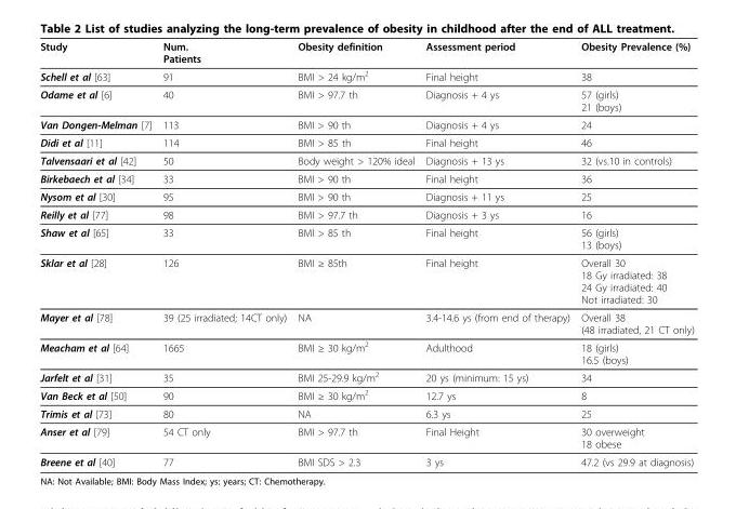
<table><thead><tr><td>Study</td><td>Num. Patients</td><td>Obesity definition</td><td>Assessment period</td><td>Obesity Prevalence (%)</td></tr></thead><tbody><tr><td>Schell et al [63]</td><td>91</td><td>BMI &gt; 24 kg/m<sup>2</sup></td><td>Final height</td><td>38</td></tr><tr><td>Odame et al [6]</td><td>40</td><td>BMI &gt; 97.7 th</td><td>Diagnosis + 4 ys</td><td>57 (girls) 21 (boys)</td></tr><tr><td>Van Dongen-Melman [7]</td><td>113</td><td>BMI &gt; 90 th</td><td>Diagnosis + 4 ys</td><td>24</td></tr><tr><td>Didi et al [11]</td><td>114</td><td>BMI &gt; 85 th</td><td>Final height</td><td>46</td></tr><tr><td>Talvensaari et al [42]</td><td>50</td><td>Body weight &gt; 120% ideal</td><td>Diagnosis + 13 ys</td><td>32 (vs.10 in controls)</td></tr><tr><td>Birkebaech et al [34]</td><td>33</td><td>BMI &gt; 90 th</td><td>Final height</td><td>36</td></tr><tr><td>Nysom et al [30]</td><td>95</td><td>BMI &gt; 90 th</td><td>Diagnosis + 11 ys</td><td>25</td></tr><tr><td>Reilly et al [77]</td><td>98</td><td>BMI &gt; 97.7 th</td><td>Diagnosis + 3 ys</td><td>16</td></tr><tr><td>Shaw et al [65]</td><td>33</td><td>BMI &gt; 85 th</td><td>Final height</td><td>56 (girls) 13 (boys)</td></tr><tr><td>Sklar et al [28]</td><td>126</td><td>BMI ≥ 85th</td><td>Final height</td><td>Overall 30 18 Gy irradiated: 38 24 Gy irradiated: 40 Not irradiated: 30</td></tr><tr><td>Mayer et al [78]</td><td>39 (25 irradiated; 14CT only)</td><td>NA</td><td>3.4-14.6 ys (from end of therapy)</td><td>Overall 38 (48 irradiated, 21 CT only)</td></tr><tr><td>Meacham et al [64]</td><td>1665</td><td>BMI ≥ 30 kg/m<sup>2</sup></td><td>Adulthood</td><td>18 (girls) 16.5 (boys)</td></tr><tr><td>Jarfelt et al [31]</td><td>35</td><td>BMI 25-29.9 kg/m<sup>2</sup></td><td>20 ys (minimum: 15 ys)</td><td>34</td></tr><tr><td>Van Beck et al [50]</td><td>90</td><td>BMI ≥ 30 kg/m<sup>2</sup></td><td>12.7 ys</td><td>8</td></tr><tr><td>Trimis et al [73]</td><td>80</td><td>NA</td><td>6.3 ys</td><td>25</td></tr><tr><td>Anser et al [79]</td><td>54 CT only</td><td>BMI &gt; 97.7 th</td><td>Final Height</td><td>30 overweight 18 obese</td></tr><tr><td>Breene et al [40]</td><td>77</td><td>BMI SDS &gt; 2.3</td><td>3 ys</td><td>47.2 (vs 29.9 at diagnosis)</td></tr></tbody></table>